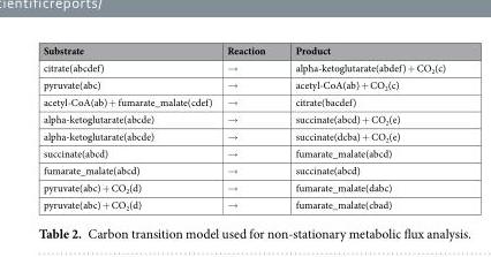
<table><thead><tr><td>Substrate</td><td>Reaction</td><td>Product</td></tr></thead><tbody><tr><td>citrate(abcdef)</td><td>→</td><td>alpha-ketoglutarate(abdef) + CO<sub>2</sub>(c)</td></tr><tr><td>pyruvate(abc)</td><td>→</td><td>acetyl-CoA(ab) + CO<sub>2</sub>(c)</td></tr><tr><td>acetyl-CoA(ab) + fumarate_malate(cdef)</td><td>→</td><td>citrate(bacdef)</td></tr><tr><td>alpha-ketoglutarate(abcde)</td><td>→</td><td>succinate(abcd) + CO<sub>2</sub>(e)</td></tr><tr><td>alpha-ketoglutarate(abcde)</td><td>→</td><td>succinate(dcba) + CO<sub>2</sub>(e)</td></tr><tr><td>succinate(abcd)</td><td>→</td><td>fumarate_malate(abcd)</td></tr><tr><td>fumarate_malate(abcd)</td><td>→</td><td>succinate(abcd)</td></tr><tr><td>pyruvate(abc) + CO<sub>2</sub>(d)</td><td>→</td><td>fumarate_malate(dabc)</td></tr><tr><td>pyruvate(abc) + CO<sub>2</sub>(d)</td><td>→</td><td>fumarate_malate(cbad)</td></tr></tbody></table>